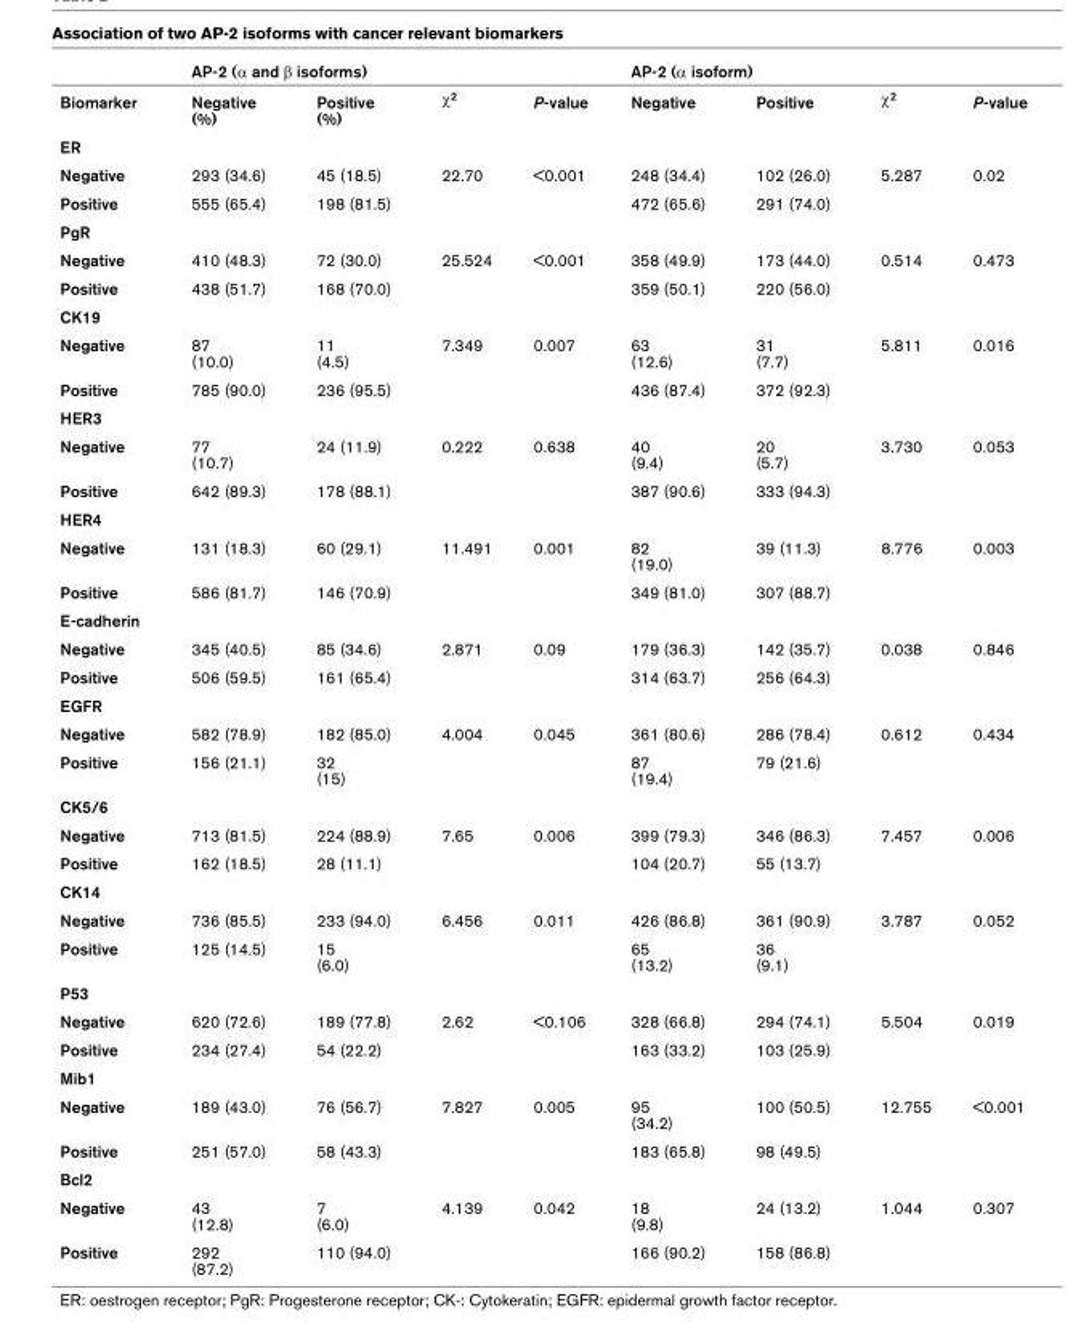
<table><thead><tr><td rowspan="2">Biomarker</td><td colspan="4">AP-2 (α and β isoforms)</td><td colspan="4">AP-2 (α isoform)</td></tr><tr><td>Negative (%)</td><td>Positive (%)</td><td>χ<sup>2</sup></td><td>P-value</td><td>Negative</td><td>Positive</td><td>χ<sup>2</sup></td><td>P-value</td></tr></thead><tbody><tr><td colspan="9">ER</td></tr><tr><td>Negative</td><td>293 (34.6)</td><td>45 (18.5)</td><td>22.70</td><td>&lt;0.001</td><td>248 (34.4)</td><td>102 (26.0)</td><td>5.287</td><td>0.02</td></tr><tr><td>Positive</td><td>555 (65.4)</td><td>198 (81.5)</td><td></td><td></td><td>472 (65.6)</td><td>291 (74.0)</td><td></td><td></td></tr><tr><td colspan="9">PgR</td></tr><tr><td>Negative</td><td>410 (48.3)</td><td>72 (30.0)</td><td>25.524</td><td>&lt;0.001</td><td>358 (49.9)</td><td>173 (44.0)</td><td>0.514</td><td>0.473</td></tr><tr><td>Positive</td><td>438 (51.7)</td><td>168 (70.0)</td><td></td><td></td><td>359 (50.1)</td><td>220 (56.0)</td><td></td><td></td></tr><tr><td colspan="9">CK19</td></tr><tr><td>Negative</td><td>87 (10.0)</td><td>11 (4.5)</td><td>7.349</td><td>0.007</td><td>63 (12.6)</td><td>31 (7.7)</td><td>5.811</td><td>0.016</td></tr><tr><td>Positive</td><td>785 (90.0)</td><td>236 (95.5)</td><td></td><td></td><td>436 (87.4)</td><td>372 (92.3)</td><td></td><td></td></tr><tr><td colspan="9">HER3</td></tr><tr><td>Negative</td><td>77 (10.7)</td><td>24 (11.9)</td><td>0.222</td><td>0.638</td><td>40 (9.4)</td><td>20 (5.7)</td><td>3.730</td><td>0.053</td></tr><tr><td>Positive</td><td>642 (89.3)</td><td>178 (88.1)</td><td></td><td></td><td>387 (90.6)</td><td>333 (94.3)</td><td></td><td></td></tr><tr><td colspan="9">HER4</td></tr><tr><td>Negative</td><td>131 (18.3)</td><td>60 (29.1)</td><td>11.491</td><td>0.001</td><td>82 (19.0)</td><td>39 (11.3)</td><td>8.776</td><td>0.003</td></tr><tr><td>Positive</td><td>586 (81.7)</td><td>146 (70.9)</td><td></td><td></td><td>349 (81.0)</td><td>307 (88.7)</td><td></td><td></td></tr><tr><td colspan="9">E-cadherin</td></tr><tr><td>Negative</td><td>345 (40.5)</td><td>85 (34.6)</td><td>2.871</td><td>0.09</td><td>179 (36.3)</td><td>142 (35.7)</td><td>0.038</td><td>0.846</td></tr><tr><td>Positive</td><td>506 (59.5)</td><td>161 (65.4)</td><td></td><td></td><td>314 (63.7)</td><td>256 (64.3)</td><td></td><td></td></tr><tr><td colspan="9">EGFR</td></tr><tr><td>Negative</td><td>582 (78.9)</td><td>182 (85.0)</td><td>4.004</td><td>0.045</td><td>361 (80.6)</td><td>286 (78.4)</td><td>0.612</td><td>0.434</td></tr><tr><td>Positive</td><td>156 (21.1)</td><td>32 (15)</td><td></td><td></td><td>87 (19.4)</td><td>79 (21.6)</td><td></td><td></td></tr><tr><td colspan="9">CK5/6</td></tr><tr><td>Negative</td><td>713 (81.5)</td><td>224 (88.9)</td><td>7.65</td><td>0.006</td><td>399 (79.3)</td><td>346 (86.3)</td><td>7.457</td><td>0.006</td></tr><tr><td>Positive</td><td>162 (18.5)</td><td>28 (11.1)</td><td></td><td></td><td>104 (20.7)</td><td>55 (13.7)</td><td></td><td></td></tr><tr><td colspan="9">CK14</td></tr><tr><td>Negative</td><td>736 (85.5)</td><td>233 (94.0)</td><td>6.456</td><td>0.011</td><td>426 (86.8)</td><td>361 (90.9)</td><td>3.787</td><td>0.052</td></tr><tr><td>Positive</td><td>125 (14.5)</td><td>15 (6.0)</td><td></td><td></td><td>65 (13.2)</td><td>36 (9.1)</td><td></td><td></td></tr><tr><td colspan="9">P53</td></tr><tr><td>Negative</td><td>620 (72.6)</td><td>189 (77.8)</td><td>2.62</td><td>&lt;0.106</td><td>328 (66.8)</td><td>294 (74.1)</td><td>5.504</td><td>0.019</td></tr><tr><td>Positive</td><td>234 (27.4)</td><td>54 (22.2)</td><td></td><td></td><td>163 (33.2)</td><td>103 (25.9)</td><td></td><td></td></tr><tr><td colspan="9">Mib1</td></tr><tr><td>Negative</td><td>189 (43.0)</td><td>76 (56.7)</td><td>7.827</td><td>0.005</td><td>95 (34.2)</td><td>100 (50.5)</td><td>12.755</td><td>&lt;0.001</td></tr><tr><td>Positive</td><td>251 (57.0)</td><td>58 (43.3)</td><td></td><td></td><td>183 (65.8)</td><td>98 (49.5)</td><td></td><td></td></tr><tr><td colspan="9">Bcl2</td></tr><tr><td>Negative</td><td>43 (12.8)</td><td>7 (6.0)</td><td>4.139</td><td>0.042</td><td>18 (9.8)</td><td>24 (13.2)</td><td>1.044</td><td>0.307</td></tr><tr><td>Positive</td><td>292 (87.2)</td><td>110 (94.0)</td><td></td><td></td><td>166 (90.2)</td><td>158 (86.8)</td><td></td><td></td></tr></tbody></table>